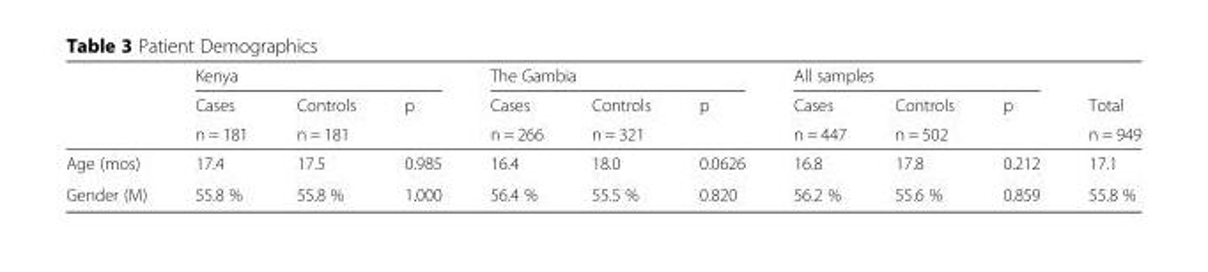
<table><thead><tr><td rowspan="3"></td><td colspan="3">Kenya</td><td colspan="3">The Gambia</td><td colspan="3">All samples</td><td rowspan="3">Total n = 949</td></tr><tr><td rowspan="2">Cases n = 181</td><td rowspan="2">Controls n = 181</td><td rowspan="2">p</td><td rowspan="2">Cases n = 266</td><td rowspan="2">Controls n = 321</td><td rowspan="2">p</td><td rowspan="2">Cases n = 447</td><td rowspan="2">Controls n = 502</td><td rowspan="2">p</td></tr><tr></tr></thead><tbody><tr><td>Age (mos)</td><td>17.4</td><td>17.5</td><td>0.985</td><td>16.4</td><td>18.0</td><td>0.0626</td><td>16.8</td><td>17.8</td><td>0.212</td><td>17.1</td></tr><tr><td>Gender (M)</td><td>55.8 %</td><td>55.8 %</td><td>1.000</td><td>56.4 %</td><td>55.5 %</td><td>0.820</td><td>56.2 %</td><td>55.6 %</td><td>0.859</td><td>55.8 %</td></tr></tbody></table>